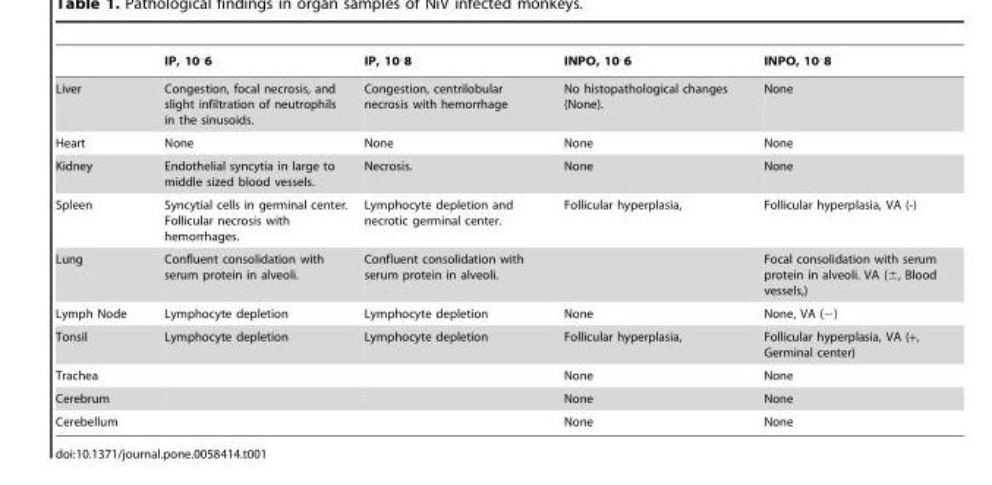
<table><thead><tr><td></td><td>IP, 10‘6</td><td>IP, 10‘8</td><td>INPO, 10‘6</td><td>INPO, 10‘8</td></tr></thead><tbody><tr><td>Liver</td><td>Congestion, focal necrosis, and slight infiltration of neutrophils in the sinusoids.</td><td>Congestion, centrilobular necrosis with hemorrhage</td><td>No histopathological changes (None).</td><td>None</td></tr><tr><td>Heart</td><td>None</td><td>None</td><td>None</td><td>None</td></tr><tr><td>Kidney</td><td>Endothelial syncytia in large to middle sized blood vessels.</td><td>Necrosis.</td><td>None</td><td>None</td></tr><tr><td>Spleen</td><td>Syncytial cells in germinal center. Follicular necrosis with hemorrhages.</td><td>Lymphocyte depletion and necrotic germinal center.</td><td>Follicular hyperplasia,</td><td>Follicular hyperplasia, VA (-)</td></tr><tr><td>Lung</td><td>Confluent consolidation with serum protein in alveoli.</td><td>Confluent consolidation with serum protein in alveoli.</td><td></td><td>Focal consolidation with serum protein in alveoli. VA (±, Blood vessels,)</td></tr><tr><td>Lymph Node</td><td>Lymphocyte depletion</td><td>Lymphocyte depletion</td><td>None</td><td>None, VA (−)</td></tr><tr><td>Tonsil</td><td>Lymphocyte depletion</td><td>Lymphocyte depletion</td><td>Follicular hyperplasia,</td><td>Follicular hyperplasia, VA (+, Germinal center)</td></tr><tr><td>Trachea</td><td></td><td></td><td>None</td><td>None</td></tr><tr><td>Cerebrum</td><td></td><td></td><td>None</td><td>None</td></tr><tr><td>Cerebellum</td><td></td><td></td><td>None</td><td>None</td></tr></tbody></table>